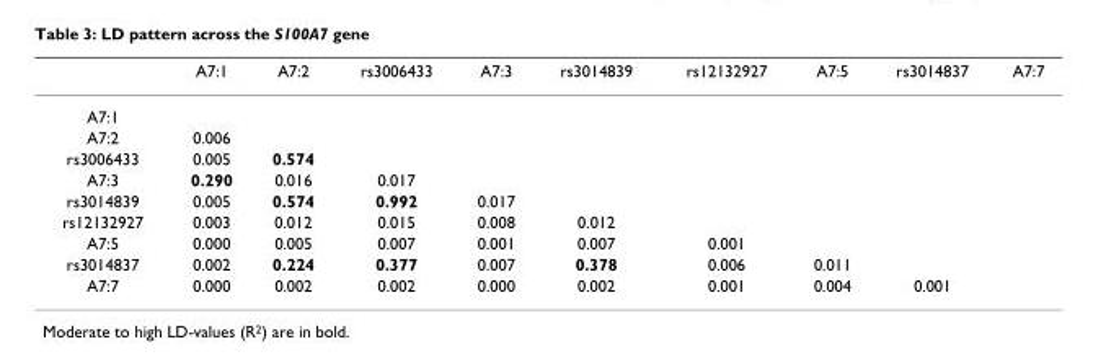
<table><thead><tr><td></td><td>A7:1</td><td>A7:2</td><td>rs3006433</td><td>A7:3</td><td>rs3014839</td><td>rs12132927</td><td>A7:5</td><td>rs3014837</td><td>A7:7</td></tr></thead><tbody><tr><td colspan="10">A7:1</td></tr><tr><td>A7:2</td><td>0.006</td><td></td><td></td><td></td><td></td><td></td><td></td><td></td><td></td></tr><tr><td>rs3006433</td><td>0.005</td><td>0.574</td><td></td><td></td><td></td><td></td><td></td><td></td><td></td></tr><tr><td>A7:3</td><td>0.290</td><td>0.016</td><td>0.017</td><td></td><td></td><td></td><td></td><td></td><td></td></tr><tr><td>rs3014839</td><td>0.005</td><td>0.574</td><td>0.992</td><td>0.017</td><td></td><td></td><td></td><td></td><td></td></tr><tr><td>rs12132927</td><td>0.003</td><td>0.012</td><td>0.015</td><td>0.008</td><td>0.012</td><td></td><td></td><td></td><td></td></tr><tr><td>A7:5</td><td>0.000</td><td>0.005</td><td>0.007</td><td>0.001</td><td>0.007</td><td>0.001</td><td></td><td></td><td></td></tr><tr><td>rs3014837</td><td>0.002</td><td>0.224</td><td>0.377</td><td>0.007</td><td>0.378</td><td>0.006</td><td>0.011</td><td></td><td></td></tr><tr><td>A7:7</td><td>0.000</td><td>0.002</td><td>0.002</td><td>0.000</td><td>0.002</td><td>0.001</td><td>0.004</td><td>0.001</td><td></td></tr></tbody></table>